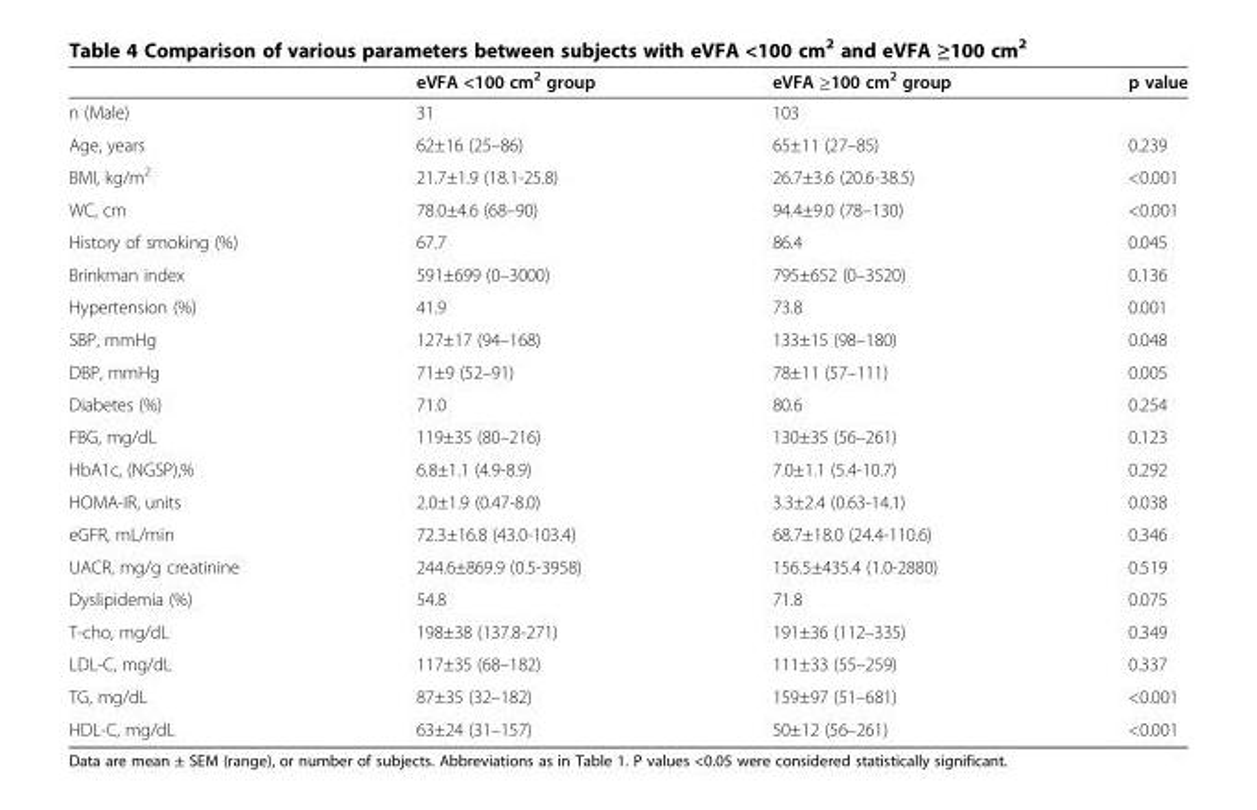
<table><thead><tr><td></td><td>eVFA &lt;100 cm<sup>2</sup> group</td><td>eVFA ≥100 cm<sup>2</sup> group</td><td>p value</td></tr></thead><tbody><tr><td>n (Male)</td><td>31</td><td>103</td><td></td></tr><tr><td>Age, years</td><td>62±16 (25–86)</td><td>65±11 (27–85)</td><td>0.239</td></tr><tr><td>BMI, kg/m<sup>2</sup></td><td>21.7±1.9 (18.1-25.8)</td><td>26.7±3.6 (20.6-38.5)</td><td>&lt;0.001</td></tr><tr><td>WC, cm</td><td>78.0±4.6 (68–90)</td><td>94.4±9.0 (78–130)</td><td>&lt;0.001</td></tr><tr><td>History of smoking (%)</td><td>67.7</td><td>86.4</td><td>0.045</td></tr><tr><td>Brinkman index</td><td>591±699 (0–3000)</td><td>795±652 (0–3520)</td><td>0.136</td></tr><tr><td>Hypertension (%)</td><td>41.9</td><td>73.8</td><td>0.001</td></tr><tr><td>SBP, mmHg</td><td>127±17 (94–168)</td><td>133±15 (98–180)</td><td>0.048</td></tr><tr><td>DBP, mmHg</td><td>71±9 (52–91)</td><td>78±11 (57–111)</td><td>0.005</td></tr><tr><td>Diabetes (%)</td><td>71.0</td><td>80.6</td><td>0.254</td></tr><tr><td>FBG, mg/dL</td><td>119±35 (80–216)</td><td>130±35 (56–261)</td><td>0.123</td></tr><tr><td>HbA1c, (NGSP),%</td><td>6.8±1.1 (4.9-8.9)</td><td>7.0±1.1 (5.4-10.7)</td><td>0.292</td></tr><tr><td>HOMA-IR, units</td><td>2.0±1.9 (0.47-8.0)</td><td>3.3±2.4 (0.63-14.1)</td><td>0.038</td></tr><tr><td>eGFR, mL/min</td><td>72.3±16.8 (43.0-103.4)</td><td>68.7±18.0 (24.4-110.6)</td><td>0.346</td></tr><tr><td>UACR, mg/g creatinine</td><td>244.6±869.9 (0.5-3958)</td><td>156.5±435.4 (1.0-2880)</td><td>0.519</td></tr><tr><td>Dyslipidemia (%)</td><td>54.8</td><td>71.8</td><td>0.075</td></tr><tr><td>T-cho, mg/dL</td><td>198±38 (137.8-271)</td><td>191±36 (112–335)</td><td>0.349</td></tr><tr><td>LDL-C, mg/dL</td><td>117±35 (68–182)</td><td>111±33 (55–259)</td><td>0.337</td></tr><tr><td>TG, mg/dL</td><td>87±35 (32–182)</td><td>159±97 (51–681)</td><td>&lt;0.001</td></tr><tr><td>HDL-C, mg/dL</td><td>63±24 (31–157)</td><td>50±12 (56–261)</td><td>&lt;0.001</td></tr></tbody></table>